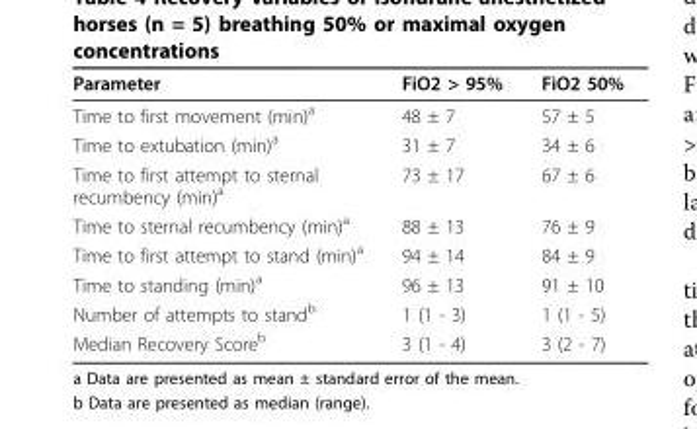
<table><thead><tr><td>Parameter</td><td>FiO2 &gt; 95%</td><td>FiO2 50%</td></tr></thead><tbody><tr><td>Time to first movement (min)<sup>a</sup></td><td>48 ± 7</td><td>57 ± 5</td></tr><tr><td>Time to extubation (min)<sup>a</sup></td><td>31 ± 7</td><td>34 ± 6</td></tr><tr><td>Time to first attempt to sternal recumbency (min)<sup>a</sup></td><td>73 ± 17</td><td>67 ± 6</td></tr><tr><td>Time to sternal recumbency (min)<sup>a</sup></td><td>88 ± 13</td><td>76 ± 9</td></tr><tr><td>Time to first attempt to stand (min)<sup>a</sup></td><td>94 ± 14</td><td>84 ± 9</td></tr><tr><td>Time to standing (min)<sup>a</sup></td><td>96 ± 13</td><td>91 ± 10</td></tr><tr><td>Number of attempts to stand<sup>b</sup></td><td>1 (1 - 3)</td><td>1 (1 - 5)</td></tr><tr><td>Median Recovery Score<sup>b</sup></td><td>3 (1 - 4)</td><td>3 (2 - 7)</td></tr></tbody></table>